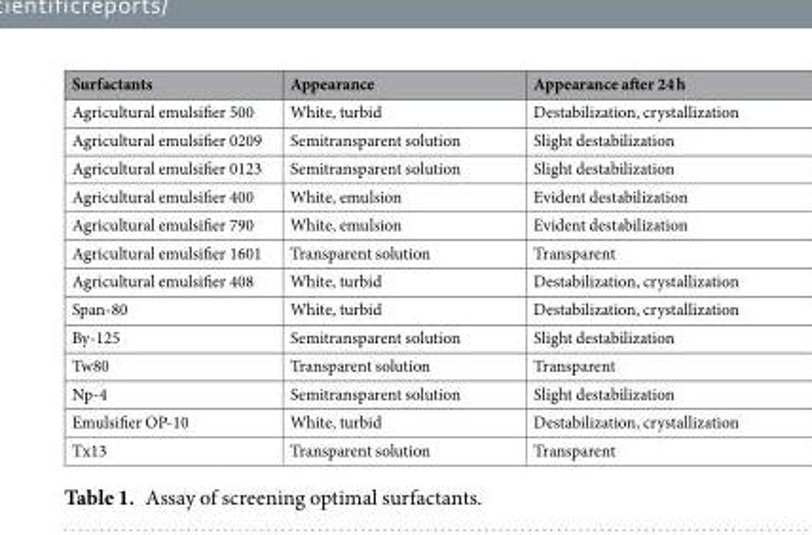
<table><thead><tr><td>Surfactants</td><td>Appearance</td><td>Appearance after 24 h</td></tr></thead><tbody><tr><td>Agricultural emulsifier 500</td><td>White, turbid</td><td>Destabilization, crystallization</td></tr><tr><td>Agricultural emulsifier 0209</td><td>Semitransparent solution</td><td>Slight destabilization</td></tr><tr><td>Agricultural emulsifier 0123</td><td>Semitransparent solution</td><td>Slight destabilization</td></tr><tr><td>Agricultural emulsifier 400</td><td>White, emulsion</td><td>Evident destabilization</td></tr><tr><td>Agricultural emulsifier 790</td><td>White, emulsion</td><td>Evident destabilization</td></tr><tr><td>Agricultural emulsifier 1601</td><td>Transparent solution</td><td>Transparent</td></tr><tr><td>Agricultural emulsifier 408</td><td>White, turbid</td><td>Destabilization, crystallization</td></tr><tr><td>Span-80</td><td>White, turbid</td><td>Destabilization, crystallization</td></tr><tr><td>By-125</td><td>Semitransparent solution</td><td>Slight destabilization</td></tr><tr><td>Tw80</td><td>Transparent solution</td><td>Transparent</td></tr><tr><td>Np-4</td><td>Semitransparent solution</td><td>Slight destabilization</td></tr><tr><td>Emulsifier OP-10</td><td>White, turbid</td><td>Destabilization, crystallization</td></tr><tr><td>Tx13</td><td>Transparent solution</td><td>Transparent</td></tr></tbody></table>